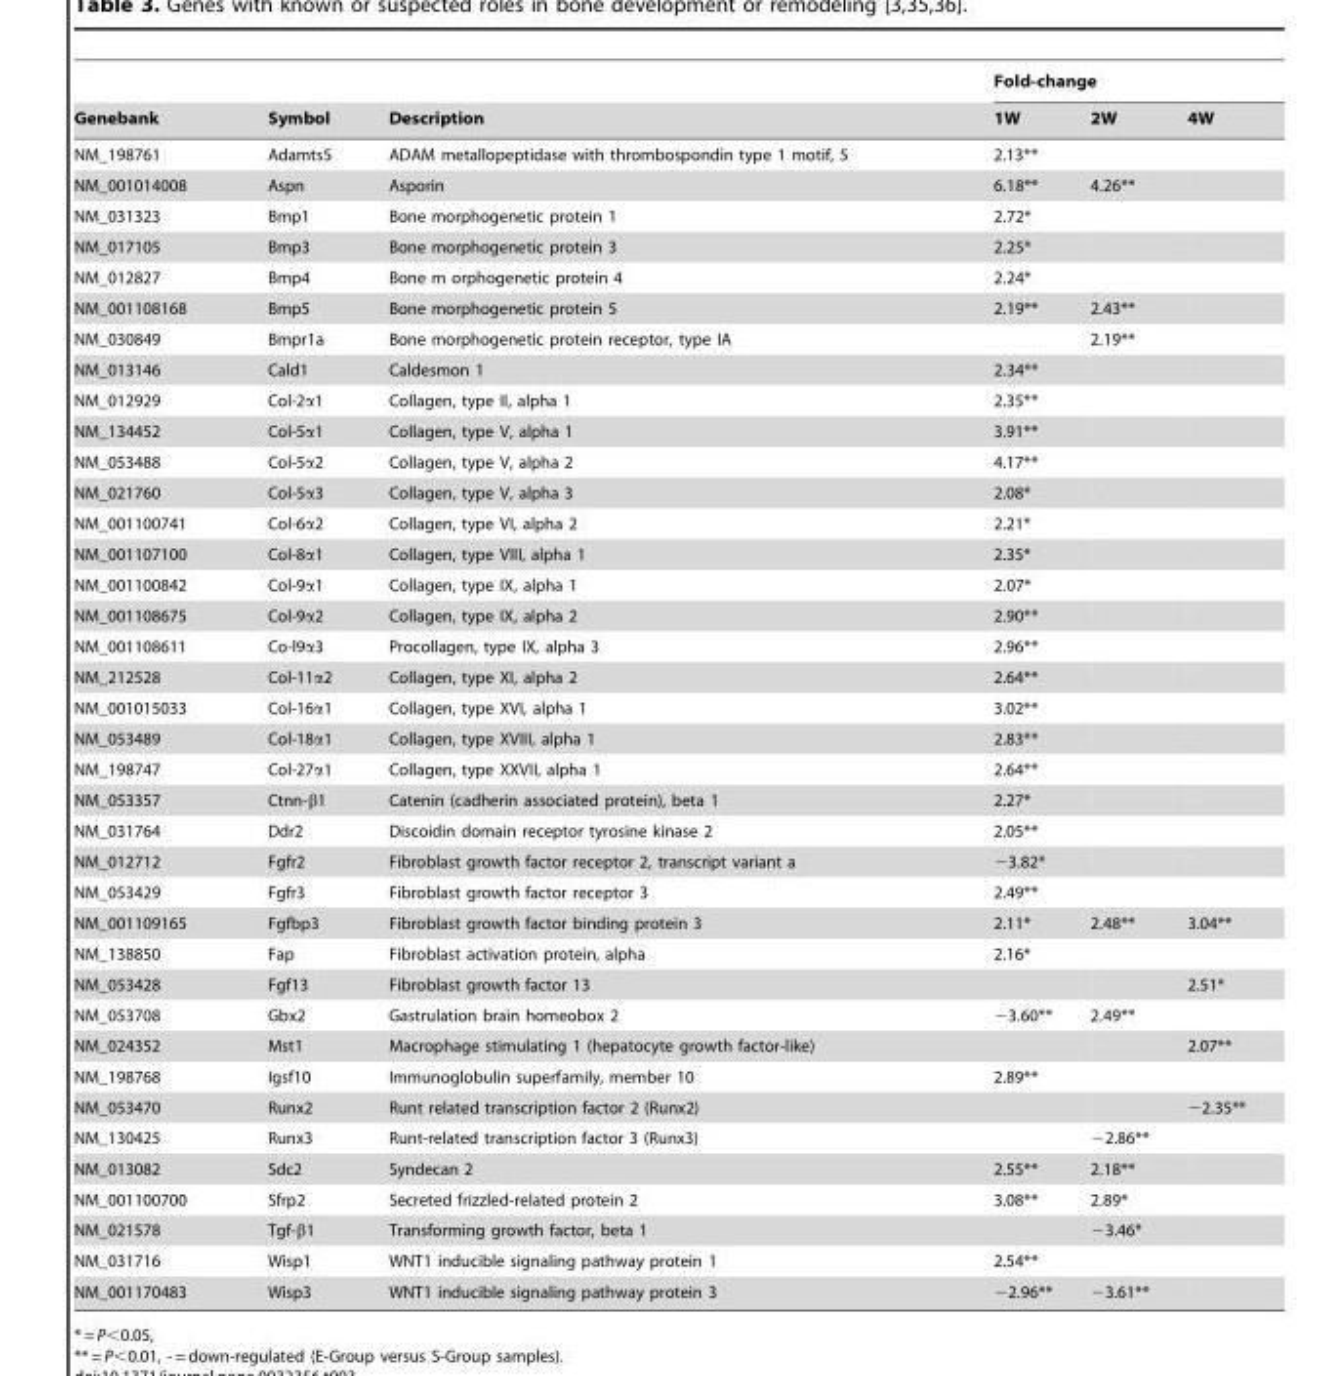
<table><thead><tr><td rowspan="2">Genebank</td><td rowspan="2">Symbol</td><td rowspan="2">Description</td><td colspan="3">Fold-change</td></tr><tr><td>1W</td><td>2W</td><td>4W</td></tr></thead><tbody><tr><td>NM_198761</td><td>Adamts5</td><td>ADAM metallopeptidase with thrombospondin type 1 motif, 5</td><td>2.13**</td><td></td><td></td></tr><tr><td>NM_001014008</td><td>Aspn</td><td>Asporin</td><td>6.18**</td><td>4.26**</td><td></td></tr><tr><td>NM_031323</td><td>Bmp1</td><td>Bone morphogenetic protein 1</td><td>2.72*</td><td></td><td></td></tr><tr><td>NM_017105</td><td>Bmp3</td><td>Bone morphogenetic protein 3</td><td>2.25*</td><td></td><td></td></tr><tr><td>NM_012827</td><td>Bmp4</td><td>Bone m orphogenetic protein 4</td><td>2.24*</td><td></td><td></td></tr><tr><td>NM_001108168</td><td>Bmp5</td><td>Bone morphogenetic protein 5</td><td>2.19**</td><td>2.43**</td><td></td></tr><tr><td>NM_030849</td><td>Bmpr1a</td><td>Bone morphogenetic protein receptor, type IA</td><td></td><td>2.19**</td><td></td></tr><tr><td>NM_013146</td><td>Cald1</td><td>Caldesmon 1</td><td>2.34**</td><td></td><td></td></tr><tr><td>NM_012929</td><td>Col-2α1</td><td>Collagen, type II, alpha 1</td><td>2.35**</td><td></td><td></td></tr><tr><td>NM_134452</td><td>Col-5α1</td><td>Collagen, type V, alpha 1</td><td>3.91**</td><td></td><td></td></tr><tr><td>NM_053488</td><td>Col-5α2</td><td>Collagen, type V, alpha 2</td><td>4.17**</td><td></td><td></td></tr><tr><td>NM_021760</td><td>Col-5α3</td><td>Collagen, type V, alpha 3</td><td>2.08*</td><td></td><td></td></tr><tr><td>NM_001100741</td><td>Col-6α2</td><td>Collagen, type VI, alpha 2</td><td>2.21*</td><td></td><td></td></tr><tr><td>NM_001107100</td><td>Col-8α1</td><td>Collagen, type VIII, alpha 1</td><td>2.35*</td><td></td><td></td></tr><tr><td>NM_001100842</td><td>Col-9α1</td><td>Collagen, type IX, alpha 1</td><td>2.07*</td><td></td><td></td></tr><tr><td>NM_001108675</td><td>Col-9α2</td><td>Collagen, type IX, alpha 2</td><td>2.90**</td><td></td><td></td></tr><tr><td>NM_001108611</td><td>Co-l9α3</td><td>Procollagen, type IX, alpha 3</td><td>2.96**</td><td></td><td></td></tr><tr><td>NM_212528</td><td>Col-11α2</td><td>Collagen, type XI, alpha 2</td><td>2.64**</td><td></td><td></td></tr><tr><td>NM_001015033</td><td>Col-16α1</td><td>Collagen, type XVI, alpha 1</td><td>3.02**</td><td></td><td></td></tr><tr><td>NM_053489</td><td>Col-18α1</td><td>Collagen, type XVIII, alpha 1</td><td>2.83**</td><td></td><td></td></tr><tr><td>NM_198747</td><td>Col-27α1</td><td>Collagen, type XXVII, alpha 1</td><td>2.64**</td><td></td><td></td></tr><tr><td>NM_053357</td><td>Ctnn-β1</td><td>Catenin (cadherin associated protein), beta 1</td><td>2.27*</td><td></td><td></td></tr><tr><td>NM_031764</td><td>Ddr2</td><td>Discoidin domain receptor tyrosine kinase 2</td><td>2.05**</td><td></td><td></td></tr><tr><td>NM_012712</td><td>Fgfr2</td><td>Fibroblast growth factor receptor 2, transcript variant a</td><td>−3.82*</td><td></td><td></td></tr><tr><td>NM_053429</td><td>Fgfr3</td><td>Fibroblast growth factor receptor 3</td><td>2.49**</td><td></td><td></td></tr><tr><td>NM_001109165</td><td>Fgfbp3</td><td>Fibroblast growth factor binding protein 3</td><td>2.11*</td><td>2.48**</td><td>3.04**</td></tr><tr><td>NM_138850</td><td>Fap</td><td>Fibroblast activation protein, alpha</td><td>2.16*</td><td></td><td></td></tr><tr><td>NM_053428</td><td>Fgf13</td><td>Fibroblast growth factor 13</td><td></td><td></td><td>2.51*</td></tr><tr><td>NM_053708</td><td>Gbx2</td><td>Gastrulation brain homeobox 2</td><td>−3.60**</td><td>2.49**</td><td></td></tr><tr><td>NM_024352</td><td>Mst1</td><td>Macrophage stimulating 1 (hepatocyte growth factor-like)</td><td></td><td></td><td>2.07**</td></tr><tr><td>NM_198768</td><td>Igsf10</td><td>Immunoglobulin superfamily, member 10</td><td>2.89**</td><td></td><td></td></tr><tr><td>NM_053470</td><td>Runx2</td><td>Runt related transcription factor 2 (Runx2)</td><td></td><td></td><td>−2.35**</td></tr><tr><td>NM_130425</td><td>Runx3</td><td>Runt-related transcription factor 3 (Runx3)</td><td></td><td>−2.86**</td><td></td></tr><tr><td>NM_013082</td><td>Sdc2</td><td>Syndecan 2</td><td>2.55**</td><td>2.18**</td><td></td></tr><tr><td>NM_001100700</td><td>Sfrp2</td><td>Secreted frizzled-related protein 2</td><td>3.08**</td><td>2.89*</td><td></td></tr><tr><td>NM_021578</td><td>Tgf-β1</td><td>Transforming growth factor, beta 1</td><td></td><td>−3.46*</td><td></td></tr><tr><td>NM_031716</td><td>Wisp1</td><td>WNT1 inducible signaling pathway protein 1</td><td>2.54**</td><td></td><td></td></tr><tr><td>NM_001170483</td><td>Wisp3</td><td>WNT1 inducible signaling pathway protein 3</td><td>−2.96**</td><td>−3.61**</td><td></td></tr></tbody></table>